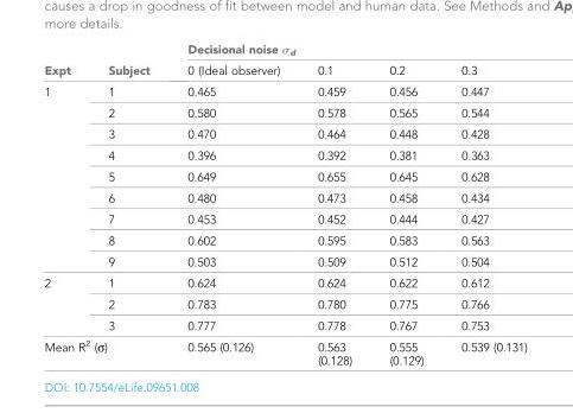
<table><thead><tr><td rowspan="2">Expt</td><td rowspan="2">Subject</td><td colspan="4">Decisional noise σ<sub>d</sub></td></tr><tr><td>0 (Ideal observer)</td><td>0.1</td><td>0.2</td><td>0.3</td></tr></thead><tbody><tr><td rowspan="9">1</td><td>1</td><td>0.465</td><td>0.459</td><td>0.456</td><td>0.447</td></tr><tr><td>2</td><td>0.580</td><td>0.578</td><td>0.565</td><td>0.544</td></tr><tr><td>3</td><td>0.470</td><td>0.464</td><td>0.448</td><td>0.428</td></tr><tr><td>4</td><td>0.396</td><td>0.392</td><td>0.381</td><td>0.363</td></tr><tr><td>5</td><td>0.649</td><td>0.655</td><td>0.645</td><td>0.628</td></tr><tr><td>6</td><td>0.480</td><td>0.473</td><td>0.458</td><td>0.434</td></tr><tr><td>7</td><td>0.453</td><td>0.452</td><td>0.444</td><td>0.427</td></tr><tr><td>8</td><td>0.602</td><td>0.595</td><td>0.583</td><td>0.563</td></tr><tr><td>9</td><td>0.503</td><td>0.509</td><td>0.512</td><td>0.504</td></tr><tr><td rowspan="3">2</td><td>1</td><td>0.624</td><td>0.624</td><td>0.622</td><td>0.612</td></tr><tr><td>2</td><td>0.783</td><td>0.780</td><td>0.775</td><td>0.766</td></tr><tr><td>3</td><td>0.777</td><td>0.778</td><td>0.767</td><td>0.753</td></tr><tr><td colspan="2">Mean R<sup>2</sup> (σ)</td><td>0.565 (0.126)</td><td>0.563 (0.128)</td><td>0.555 (0.129)</td><td>0.539 (0.131)</td></tr></tbody></table>